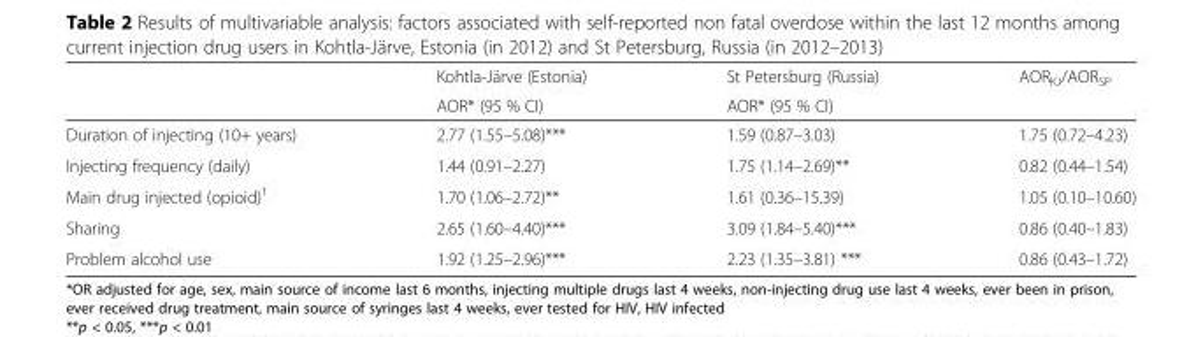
<table><thead><tr><td rowspan="2"></td><td rowspan="2">Kohtla-Järve (Estonia) AOR* (95 % CI)</td><td rowspan="2">St Petersburg (Russia) AOR* (95 % CI)</td><td rowspan="2">AOR<sub>KJ</sub>/AOR<sub>SP</sub></td></tr><tr></tr></thead><tbody><tr><td>Duration of injecting (10+ years)</td><td>2.77 (1.55–5.08)***</td><td>1.59 (0.87–3.03)</td><td>1.75 (0.72–4.23)</td></tr><tr><td>Injecting frequency (daily)</td><td>1.44 (0.91–2.27)</td><td>1.75 (1.14–2.69)**</td><td>0.82 (0.44–1.54)</td></tr><tr><td>Main drug injected (opioid)<sup>1</sup></td><td>1.70 (1.06–2.72)**</td><td>1.61 (0.36–15.39)</td><td>1.05 (0.10–10.60)</td></tr><tr><td>Sharing</td><td>2.65 (1.60–4.40)***</td><td>3.09 (1.84–5.40)***</td><td>0.86 (0.40–1.83)</td></tr><tr><td>Problem alcohol use</td><td>1.92 (1.25–2.96)***</td><td>2.23 (1.35–3.81) ***</td><td>0.86 (0.43–1.72)</td></tr></tbody></table>